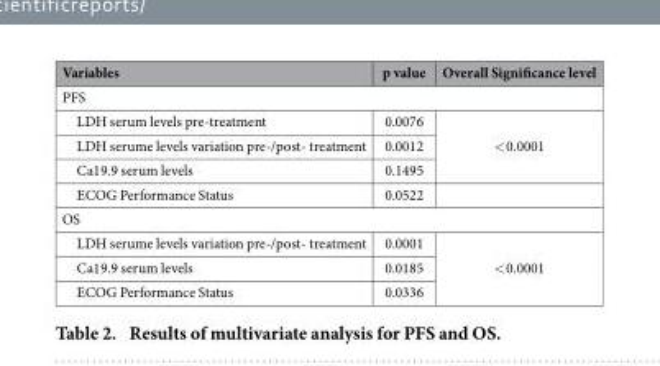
<table><thead><tr><td>Variables</td><td>p value</td><td>Overall Significance level</td></tr></thead><tbody><tr><td colspan="3">PFS</td></tr><tr><td>LDH serum levels pre-treatment</td><td>0.0076</td><td rowspan="4">&lt; 0.0001</td></tr><tr><td>LDH serume levels variation pre-/post- treatment</td><td>0.0012</td></tr><tr><td>Ca19.9 serum levels</td><td>0.1495</td></tr><tr><td>ECOG Performance Status</td><td>0.0522</td></tr><tr><td colspan="3">OS</td></tr><tr><td>LDH serume levels variation pre-/post- treatment</td><td>0.0001</td><td rowspan="3">&lt; 0.0001</td></tr><tr><td>Ca19.9 serum levels</td><td>0.0185</td></tr><tr><td>ECOG Performance Status</td><td>0.0336</td></tr></tbody></table>